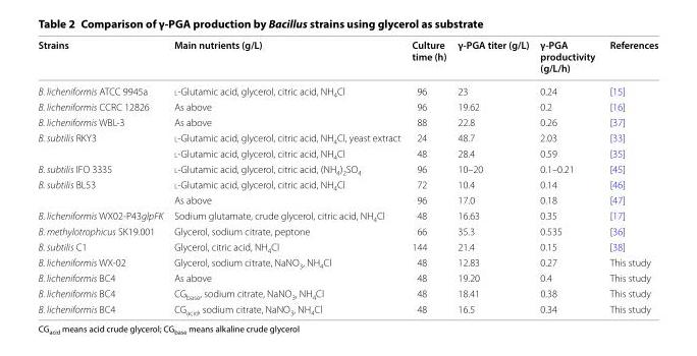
<table><thead><tr><td>Strains</td><td>Main nutrients (g/L)</td><td>Culture time (h)</td><td>γ‑PGA titer (g/L)</td><td>γ‑PGA productivity (g/L/h)</td><td>References</td></tr></thead><tbody><tr><td>B. licheniformis ATCC 9945a</td><td>l-Glutamic acid, glycerol, citric acid, NH<sub>4</sub>Cl</td><td>96</td><td>23</td><td>0.24</td><td>[15]</td></tr><tr><td>B. licheniformis CCRC 12826</td><td>As above</td><td>96</td><td>19.62</td><td>0.2</td><td>[16]</td></tr><tr><td>B. licheniformis WBL-3</td><td>As above</td><td>88</td><td>22.8</td><td>0.26</td><td>[37]</td></tr><tr><td rowspan="2">B. subtilis RKY3</td><td>l-Glutamic acid, glycerol, citric acid, NH<sub>4</sub>Cl, yeast extract</td><td>24</td><td>48.7</td><td>2.03</td><td>[33]</td></tr><tr><td>l-Glutamic acid, glycerol, citric acid, NH<sub>4</sub>Cl</td><td>48</td><td>28.4</td><td>0.59</td><td>[35]</td></tr><tr><td>B. subtilis IFO 3335</td><td>l-Glutamic acid, glycerol, citric acid, (NH<sub>4</sub>)<sub>2</sub>SO<sub>4</sub></td><td>96</td><td>10–20</td><td>0.1–0.21</td><td>[45]</td></tr><tr><td rowspan="2">B. subtilis BL53</td><td>l-Glutamic acid, glycerol, citric acid, NH<sub>4</sub>Cl</td><td>72</td><td>10.4</td><td>0.14</td><td>[46]</td></tr><tr><td>As above</td><td>96</td><td>17.0</td><td>0.18</td><td>[47]</td></tr><tr><td>B. licheniformis WX02-P43glpFK</td><td>Sodium glutamate, crude glycerol, citric acid, NH<sub>4</sub>Cl</td><td>48</td><td>16.63</td><td>0.35</td><td>[17]</td></tr><tr><td>B. methylotrophicus SK19.001</td><td>Glycerol, sodium citrate, peptone</td><td>66</td><td>35.3</td><td>0.535</td><td>[36]</td></tr><tr><td>B. subtilis C1</td><td>Glycerol, citric acid, NH<sub>4</sub>Cl</td><td>144</td><td>21.4</td><td>0.15</td><td>[38]</td></tr><tr><td>B. licheniformis WX-02</td><td>Glycerol, sodium citrate, NaNO<sub>3</sub>, NH<sub>4</sub>Cl</td><td>48</td><td>12.83</td><td>0.27</td><td>This study</td></tr><tr><td>B. licheniformis BC4</td><td>As above</td><td>48</td><td>19.20</td><td>0.4</td><td>This study</td></tr><tr><td>B. licheniformis BC4</td><td>CG<sub>base</sub>, sodium citrate, NaNO<sub>3</sub>, NH<sub>4</sub>Cl</td><td>48</td><td>18.41</td><td>0.38</td><td>This study</td></tr><tr><td>B. licheniformis BC4</td><td>CG<sub>acid</sub>, sodium citrate, NaNO<sub>3</sub>, NH<sub>4</sub>Cl</td><td>48</td><td>16.5</td><td>0.34</td><td>This study</td></tr></tbody></table>